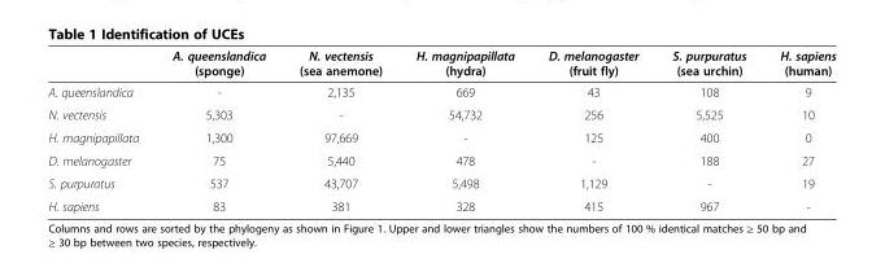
<table><thead><tr><td></td><td>A. queenslandica (sponge)</td><td>N. vectensis (sea anemone)</td><td>H. magnipapillata (hydra)</td><td>D. melanogaster (fruit fly)</td><td>S. purpuratus (sea urchin)</td><td>H. sapiens (human)</td></tr></thead><tbody><tr><td>A. queenslandica</td><td>-</td><td>2,135</td><td>669</td><td>43</td><td>108</td><td>9</td></tr><tr><td>N. vectensis</td><td>5,303</td><td>-</td><td>54,732</td><td>256</td><td>5,525</td><td>10</td></tr><tr><td>H. magnipapillata</td><td>1,300</td><td>97,669</td><td>-</td><td>125</td><td>400</td><td>0</td></tr><tr><td>D. melanogaster</td><td>75</td><td>5,440</td><td>478</td><td>-</td><td>188</td><td>27</td></tr><tr><td>S. purpuratus</td><td>537</td><td>43,707</td><td>5,498</td><td>1,129</td><td>-</td><td>19</td></tr><tr><td>H. sapiens</td><td>83</td><td>381</td><td>328</td><td>415</td><td>967</td><td>-</td></tr></tbody></table>